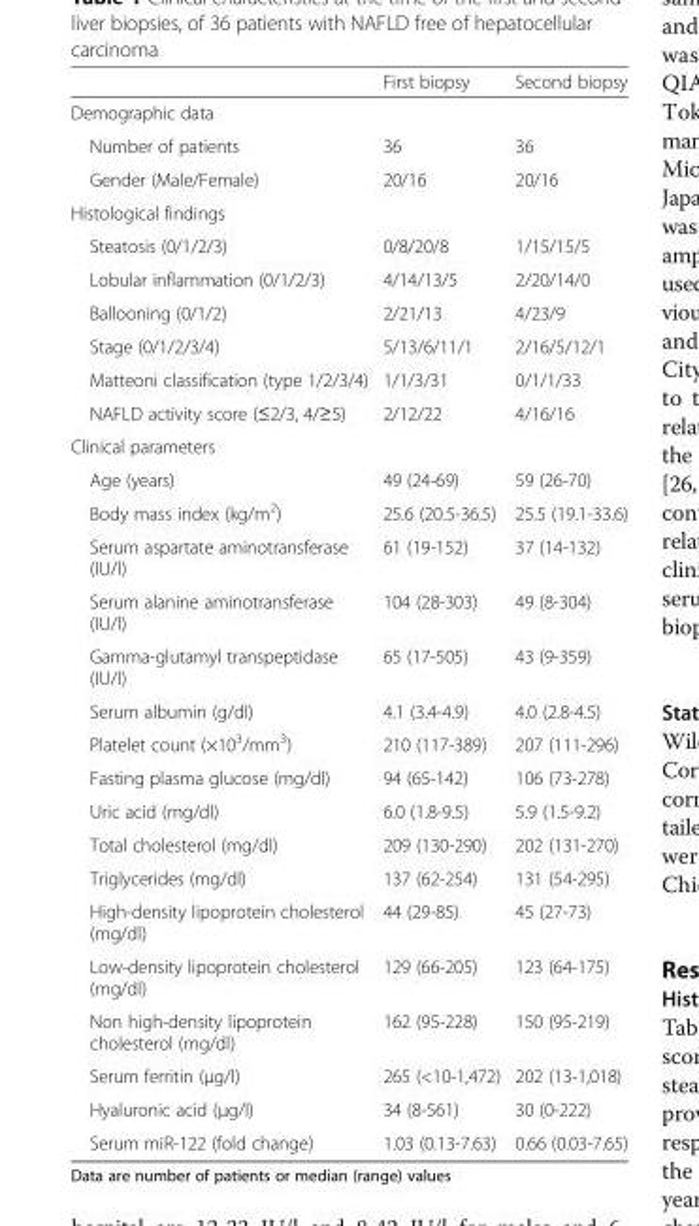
<table><thead><tr><td></td><td>First biopsy</td><td>Second biopsy</td></tr></thead><tbody><tr><td colspan="3">Demographic data</td></tr><tr><td>Number of patients</td><td>36</td><td>36</td></tr><tr><td>Gender (Male/Female)</td><td>20/16</td><td>20/16</td></tr><tr><td colspan="3">Histological findings</td></tr><tr><td>Steatosis (0/1/2/3)</td><td>0/8/20/8</td><td>1/15/15/5</td></tr><tr><td>Lobular inflammation (0/1/2/3)</td><td>4/14/13/5</td><td>2/20/14/0</td></tr><tr><td>Ballooning (0/1/2)</td><td>2/21/13</td><td>4/23/9</td></tr><tr><td>Stage (0/1/2/3/4)</td><td>5/13/6/11/1</td><td>2/16/5/12/1</td></tr><tr><td>Matteoni classification (type 1/2/3/4)</td><td>1/1/3/31</td><td>0/1/1/33</td></tr><tr><td>NAFLD activity score (≤2/3, 4/≥5)</td><td>2/12/22</td><td>4/16/16</td></tr><tr><td colspan="3">Clinical parameters</td></tr><tr><td>Age (years)</td><td>49 (24-69)</td><td>59 (26-70)</td></tr><tr><td>Body mass index (kg/m<sup>2</sup>)</td><td>25.6 (20.5-36.5)</td><td>25.5 (19.1-33.6)</td></tr><tr><td>Serum aspartate aminotransferase (IU/l)</td><td>61 (19-152)</td><td>37 (14-132)</td></tr><tr><td>Serum alanine aminotransferase (IU/l)</td><td>104 (28-303)</td><td>49 (8-304)</td></tr><tr><td>Gamma-glutamyl transpeptidase (IU/l)</td><td>65 (17-505)</td><td>43 (9-359)</td></tr><tr><td>Serum albumin (g/dl)</td><td>4.1 (3.4-4.9)</td><td>4.0 (2.8-4.5)</td></tr><tr><td>Platelet count (×10<sup>3</sup>/mm<sup>3</sup>)</td><td>210 (117-389)</td><td>207 (111-296)</td></tr><tr><td>Fasting plasma glucose (mg/dl)</td><td>94 (65-142)</td><td>106 (73-278)</td></tr><tr><td>Uric acid (mg/dl)</td><td>6.0 (1.8-9.5)</td><td>5.9 (1.5-9.2)</td></tr><tr><td>Total cholesterol (mg/dl)</td><td>209 (130-290)</td><td>202 (131-270)</td></tr><tr><td>Triglycerides (mg/dl)</td><td>137 (62-254)</td><td>131 (54-295)</td></tr><tr><td>High-density lipoprotein cholesterol (mg/dl)</td><td>44 (29-85)</td><td>45 (27-73)</td></tr><tr><td>Low-density lipoprotein cholesterol (mg/dl)</td><td>129 (66-205)</td><td>123 (64-175)</td></tr><tr><td>Non high-density lipoprotein cholesterol (mg/dl)</td><td>162 (95-228)</td><td>150 (95-219)</td></tr><tr><td>Serum ferritin (μg/l)</td><td>265 (&lt;10-1,472)</td><td>202 (13-1,018)</td></tr><tr><td>Hyaluronic acid (μg/l)</td><td>34 (8-561)</td><td>30 (0-222)</td></tr><tr><td>Serum miR-122 (fold change)</td><td>1.03 (0.13-7.63)</td><td>0.66 (0.03-7.65)</td></tr></tbody></table>